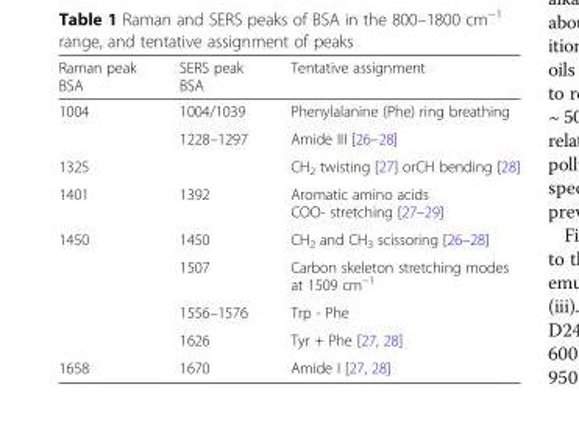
<table><thead><tr><td>Raman peak BSA</td><td>SERS peak BSA</td><td>Tentative assignment</td></tr></thead><tbody><tr><td rowspan="2">1004</td><td>1004/1039</td><td>Phenylalanine (Phe) ring breathing</td></tr><tr><td>1228–1297</td><td>Amide III [26–28]</td></tr><tr><td>1325</td><td></td><td>CH<sub>2</sub> twisting [27] orCH bending [28]</td></tr><tr><td>1401</td><td>1392</td><td>Aromatic amino acids COO- stretching [27–29]</td></tr><tr><td rowspan="4">1450</td><td>1450</td><td>CH<sub>2</sub> and CH<sub>3</sub> scissoring [26–28]</td></tr><tr><td>1507</td><td>Carbon skeleton stretching modes at 1509 cm<sup>−1</sup></td></tr><tr><td>1556–1576</td><td>Trp - Phe</td></tr><tr><td>1626</td><td>Tyr + Phe [27, 28]</td></tr><tr><td>1658</td><td>1670</td><td>Amide I [27, 28]</td></tr></tbody></table>